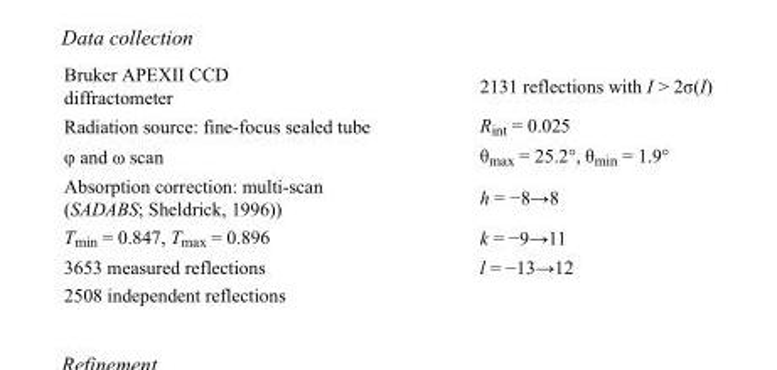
<table><tbody><tr><td>Bruker APEXII CCD diffractometer</td><td>2131 reflections with I &gt; 2σ(I)</td></tr><tr><td>Radiation source: fine-focus sealed tube</td><td>R<sub>int</sub> = 0.025</td></tr><tr><td>φ and ω scan</td><td>θ<sub>max</sub> = 25.2°, θ<sub>min</sub> = 1.9°</td></tr><tr><td>Absorption correction: multi-scan (SADABS; Sheldrick, 1996))</td><td>h = −8→8</td></tr><tr><td>T<sub>min</sub> = 0.847, T<sub>max</sub> = 0.896</td><td>k = −9→11</td></tr><tr><td>3653 measured reflections</td><td>l = −13→12</td></tr><tr><td>2508 independent reflections</td><td></td></tr></tbody></table>